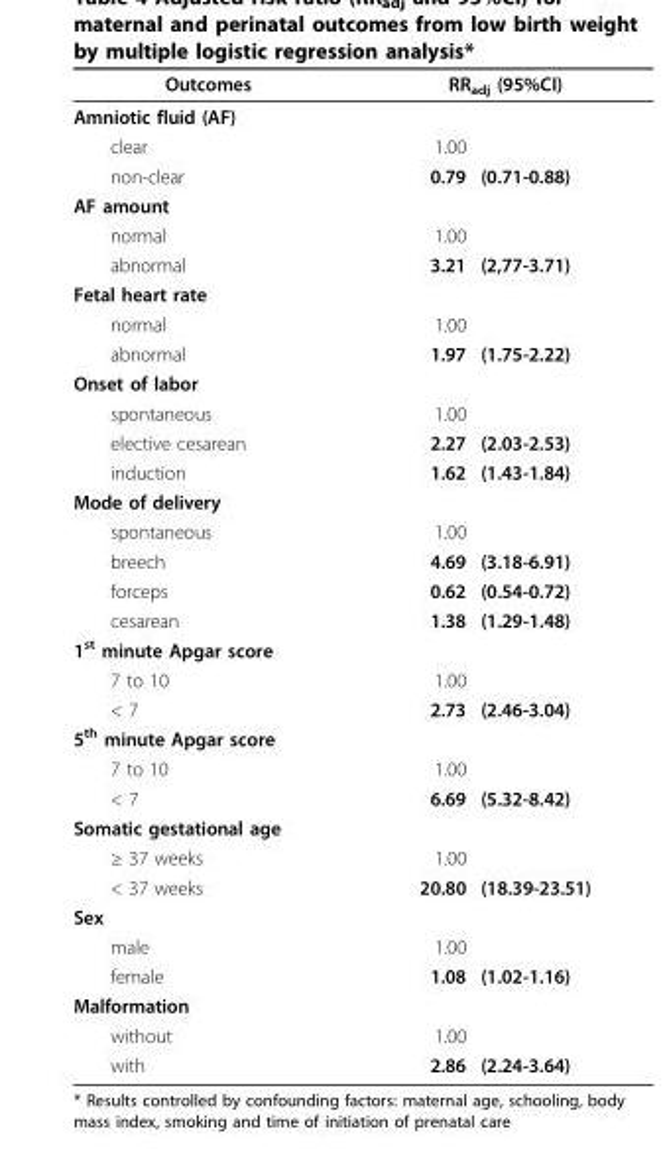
<table><thead><tr><td rowspan="2">Outcomes Amniotic fluid (AF)</td><td colspan="2">RR<sub>adj</sub> (95%CI)</td></tr><tr><td></td><td></td></tr></thead><tbody><tr><td>clear</td><td>1.00</td><td></td></tr><tr><td>non-clear</td><td>0.79</td><td>(0.71-0.88)</td></tr><tr><td colspan="3">AF amount</td></tr><tr><td>normal</td><td>1.00</td><td></td></tr><tr><td>abnormal</td><td>3.21</td><td>(2,77-3.71)</td></tr><tr><td colspan="3">Fetal heart rate</td></tr><tr><td>normal</td><td>1.00</td><td></td></tr><tr><td>abnormal</td><td>1.97</td><td>(1.75-2.22)</td></tr><tr><td colspan="3">Onset of labor</td></tr><tr><td>spontaneous</td><td>1.00</td><td></td></tr><tr><td>elective cesarean</td><td>2.27</td><td>(2.03-2.53)</td></tr><tr><td>induction</td><td>1.62</td><td>(1.43-1.84)</td></tr><tr><td colspan="3">Mode of delivery</td></tr><tr><td>spontaneous</td><td>1.00</td><td></td></tr><tr><td>breech</td><td>4.69</td><td>(3.18-6.91)</td></tr><tr><td>forceps</td><td>0.62</td><td>(0.54-0.72)</td></tr><tr><td>cesarean</td><td>1.38</td><td>(1.29-1.48)</td></tr><tr><td colspan="3">1<sup>st</sup> minute Apgar score</td></tr><tr><td>7 to 10</td><td>1.00</td><td></td></tr><tr><td>&lt; 7</td><td>2.73</td><td>(2.46-3.04)</td></tr><tr><td colspan="3">5<sup>th</sup> minute Apgar score</td></tr><tr><td>7 to 10</td><td>1.00</td><td></td></tr><tr><td>&lt; 7</td><td>6.69</td><td>(5.32-8.42)</td></tr><tr><td colspan="3">Somatic gestational age</td></tr><tr><td>≥ 37 weeks</td><td>1.00</td><td></td></tr><tr><td>&lt; 37 weeks</td><td>20.80</td><td>(18.39-23.51)</td></tr><tr><td colspan="3">Sex</td></tr><tr><td>male</td><td>1.00</td><td></td></tr><tr><td>female</td><td>1.08</td><td>(1.02-1.16)</td></tr><tr><td colspan="3">Malformation</td></tr><tr><td>without</td><td>1.00</td><td></td></tr><tr><td>with</td><td>2.86</td><td>(2.24-3.64)</td></tr></tbody></table>